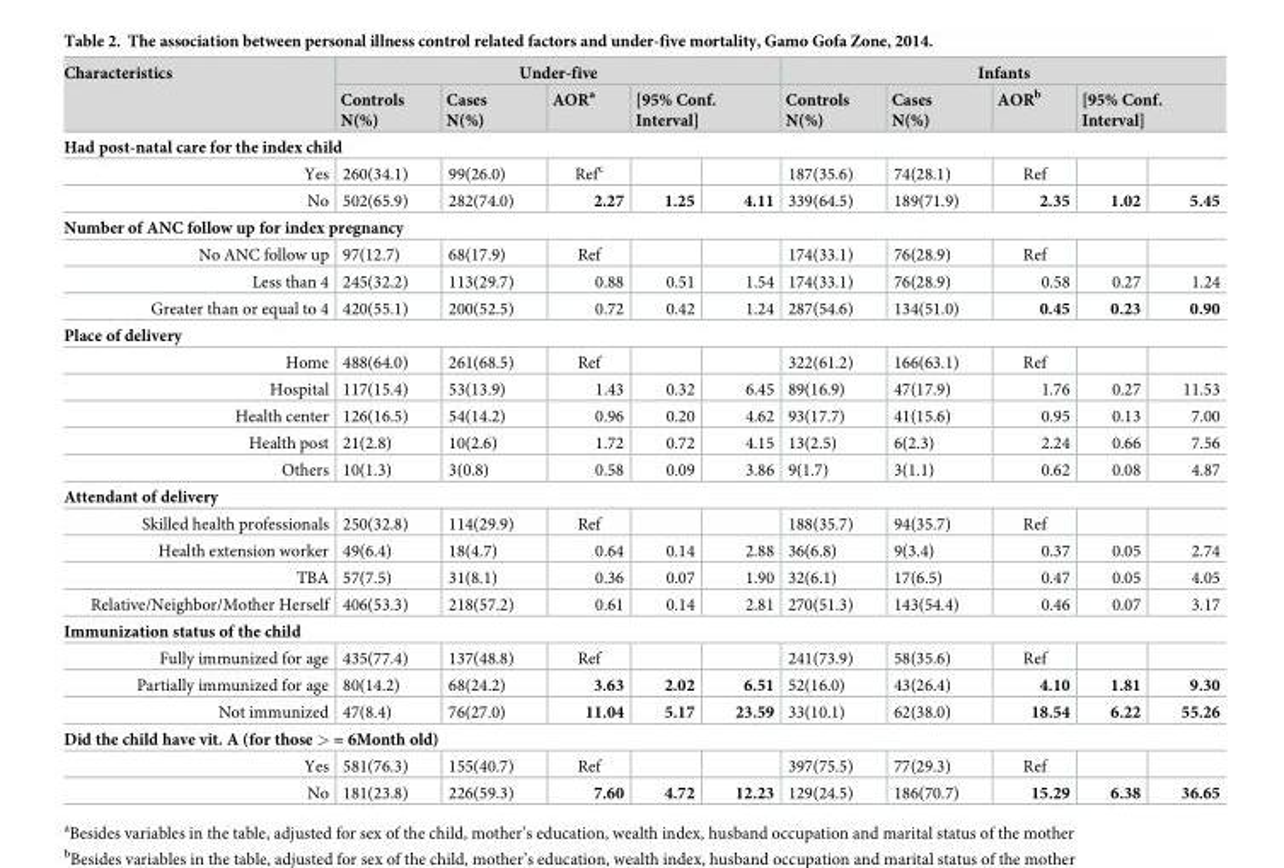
<table><thead><tr><td rowspan="2">Characteristics</td><td colspan="5">Under-five</td><td colspan="5">Infants</td></tr><tr><td>Controls N(%)</td><td>Cases N(%)</td><td>AOR<sup>a</sup></td><td colspan="2">[95% Conf. Interval]</td><td>Controls N(%)</td><td>Cases N(%)</td><td>AOR<sup>b</sup></td><td colspan="2">[95% Conf. Interval]</td></tr><tr><td colspan="11">Had post-natal care for the index child</td></tr><tr><td>Yes</td><td>260(34.1)</td><td>99(26.0)</td><td>Ref<sup>c</sup></td><td></td><td></td><td>187(35.6)</td><td>74(28.1)</td><td>Ref</td><td></td><td></td></tr></thead><tbody><tr><td>No</td><td>502(65.9)</td><td>282(74.0)</td><td>2.27</td><td>1.25</td><td>4.11</td><td>339(64.5)</td><td>189(71.9)</td><td>2.35</td><td>1.02</td><td>5.45</td></tr><tr><td colspan="11">Number of ANC follow up for index pregnancy</td></tr><tr><td>No ANC follow up</td><td>97(12.7)</td><td>68(17.9)</td><td>Ref</td><td></td><td></td><td>174(33.1)</td><td>76(28.9)</td><td>Ref</td><td></td><td></td></tr><tr><td>Less than 4</td><td>245(32.2)</td><td>113(29.7)</td><td>0.88</td><td>0.51</td><td>1.54</td><td>174(33.1)</td><td>76(28.9)</td><td>0.58</td><td>0.27</td><td>1.24</td></tr><tr><td>Greater than or equal to 4</td><td>420(55.1)</td><td>200(52.5)</td><td>0.72</td><td>0.42</td><td>1.24</td><td>287(54.6)</td><td>134(51.0)</td><td>0.45</td><td>0.23</td><td>0.90</td></tr><tr><td colspan="11">Place of delivery</td></tr><tr><td>Home</td><td>488(64.0)</td><td>261(68.5)</td><td>Ref</td><td></td><td></td><td>322(61.2)</td><td>166(63.1)</td><td>Ref</td><td></td><td></td></tr><tr><td>Hospital</td><td>117(15.4)</td><td>53(13.9)</td><td>1.43</td><td>0.32</td><td>6.45</td><td>89(16.9)</td><td>47(17.9)</td><td>1.76</td><td>0.27</td><td>11.53</td></tr><tr><td>Health center</td><td>126(16.5)</td><td>54(14.2)</td><td>0.96</td><td>0.20</td><td>4.62</td><td>93(17.7)</td><td>41(15.6)</td><td>0.95</td><td>0.13</td><td>7.00</td></tr><tr><td>Health post</td><td>21(2.8)</td><td>10(2.6)</td><td>1.72</td><td>0.72</td><td>4.15</td><td>13(2.5)</td><td>6(2.3)</td><td>2.24</td><td>0.66</td><td>7.56</td></tr><tr><td>Others</td><td>10(1.3)</td><td>3(0.8)</td><td>0.58</td><td>0.09</td><td>3.86</td><td>9(1.7)</td><td>3(1.1)</td><td>0.62</td><td>0.08</td><td>4.87</td></tr><tr><td colspan="11">Attendant of delivery</td></tr><tr><td>Skilled health professionals</td><td>250(32.8)</td><td>114(29.9)</td><td>Ref</td><td></td><td></td><td>188(35.7)</td><td>94(35.7)</td><td>Ref</td><td></td><td></td></tr><tr><td>Health extension worker</td><td>49(6.4)</td><td>18(4.7)</td><td>0.64</td><td>0.14</td><td>2.88</td><td>36(6.8)</td><td>9(3.4)</td><td>0.37</td><td>0.05</td><td>2.74</td></tr><tr><td>TBA</td><td>57(7.5)</td><td>31(8.1)</td><td>0.36</td><td>0.07</td><td>1.90</td><td>32(6.1)</td><td>17(6.5)</td><td>0.47</td><td>0.05</td><td>4.05</td></tr><tr><td>Relative/Neighbor/Mother Herself</td><td>406(53.3)</td><td>218(57.2)</td><td>0.61</td><td>0.14</td><td>2.81</td><td>270(51.3)</td><td>143(54.4)</td><td>0.46</td><td>0.07</td><td>3.17</td></tr><tr><td colspan="11">Immunization status of the child</td></tr><tr><td>Fully immunized for age</td><td>435(77.4)</td><td>137(48.8)</td><td>Ref</td><td></td><td></td><td>241(73.9)</td><td>58(35.6)</td><td>Ref</td><td></td><td></td></tr><tr><td>Partially immunized for age</td><td>80(14.2)</td><td>68(24.2)</td><td>3.63</td><td>2.02</td><td>6.51</td><td>52(16.0)</td><td>43(26.4)</td><td>4.10</td><td>1.81</td><td>9.30</td></tr><tr><td>Not immunized</td><td>47(8.4)</td><td>76(27.0)</td><td>11.04</td><td>5.17</td><td>23.59</td><td>33(10.1)</td><td>62(38.0)</td><td>18.54</td><td>6.22</td><td>55.26</td></tr><tr><td colspan="11">Did the child have vit. A (for those &gt; = 6Month old)</td></tr><tr><td>Yes</td><td>581(76.3)</td><td>155(40.7)</td><td>Ref</td><td></td><td></td><td>397(75.5)</td><td>77(29.3)</td><td>Ref</td><td></td><td></td></tr><tr><td>No</td><td>181(23.8)</td><td>226(59.3)</td><td>7.60</td><td>4.72</td><td>12.23</td><td>129(24.5)</td><td>186(70.7)</td><td>15.29</td><td>6.38</td><td>36.65</td></tr></tbody></table>